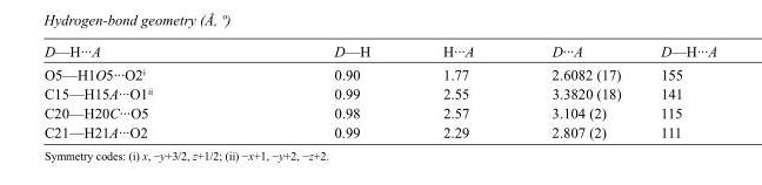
<table><tbody><tr><td>D—H···A</td><td>D—H</td><td>H···A</td><td>D···A</td><td>D—H···A</td></tr><tr><td>O5—H1O5···O2<sup>i</sup></td><td>0.90</td><td>1.77</td><td>2.6082 (17)</td><td>155</td></tr><tr><td>C15—H15A···O1<sup>ii</sup></td><td>0.99</td><td>2.55</td><td>3.3820 (18)</td><td>141</td></tr><tr><td>C20—H20C···O5</td><td>0.98</td><td>2.57</td><td>3.104 (2)</td><td>115</td></tr><tr><td>C21—H21A···O2</td><td>0.99</td><td>2.29</td><td>2.807 (2)</td><td>111</td></tr></tbody></table>